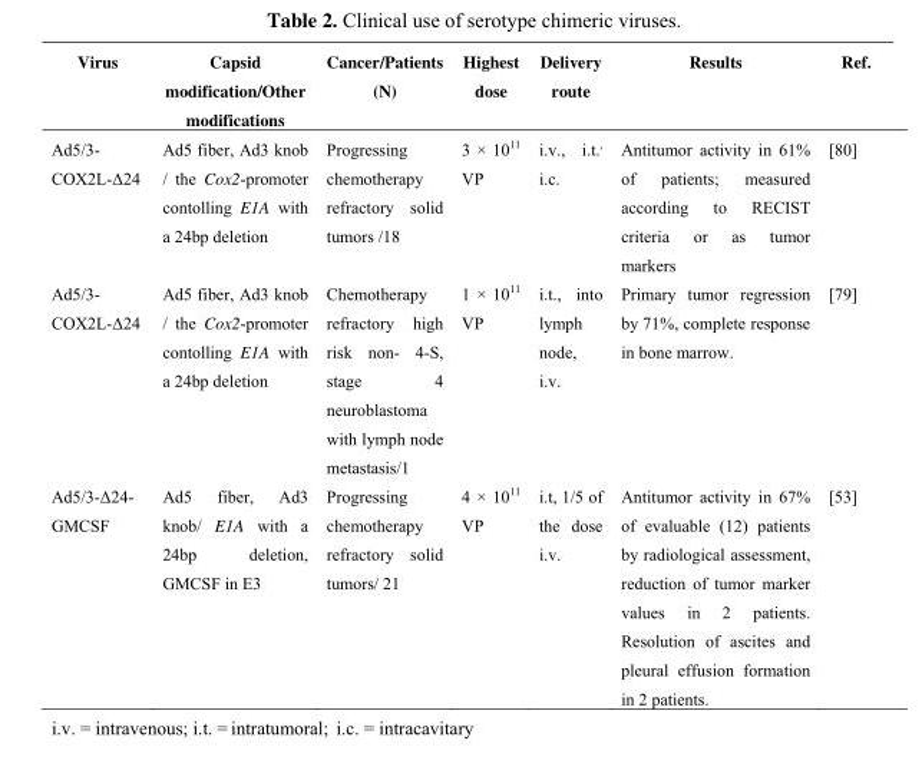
<table><thead><tr><td>Virus</td><td>Capsid modification/Other modifications</td><td>Cancer/Patients (N)</td><td>Highest dose</td><td>Delivery route</td><td>Results</td><td>Ref.</td></tr></thead><tbody><tr><td>Ad5/3- COX2L-Δ24</td><td>Ad5 fiber, Ad3 knob / the Cox2-promoter contolling E1A with a 24bp deletion</td><td>Progressing chemotherapy refractory solid tumors /18</td><td>3 × 10<sup>11</sup> VP</td><td>i.v., i.t.’ i.c.</td><td>Antitumor activity in 61% of patients; measured according to RECIST criteria or as tumor markers</td><td>[80]</td></tr><tr><td>Ad5/3- COX2L-Δ24</td><td>Ad5 fiber, Ad3 knob / the Cox2-promoter contolling E1A with a 24bp deletion</td><td>Chemotherapy refractory high risk non- 4-S, stage 4 neuroblastoma with lymph node metastasis/1</td><td>1 × 10<sup>11</sup> VP</td><td>i.t., into lymph node, i.v.</td><td>Primary tumor regression by 71%, complete response in bone marrow.</td><td>[79]</td></tr><tr><td>Ad5/3-Δ24- GMCSF</td><td>Ad5 fiber, Ad3 knob/ E1A with a 24bp deletion, GMCSF in E3</td><td>Progressing chemotherapy refractory solid tumors/ 21</td><td>4 × 10<sup>11</sup> VP</td><td>i.t, 1/5 of the dose i.v.</td><td>Antitumor activity in 67% of evaluable (12) patients by radiological assessment, reduction of tumor marker values in 2 patients. Resolution of ascites and pleural effusion formation in 2 patients.</td><td>[53]</td></tr></tbody></table>